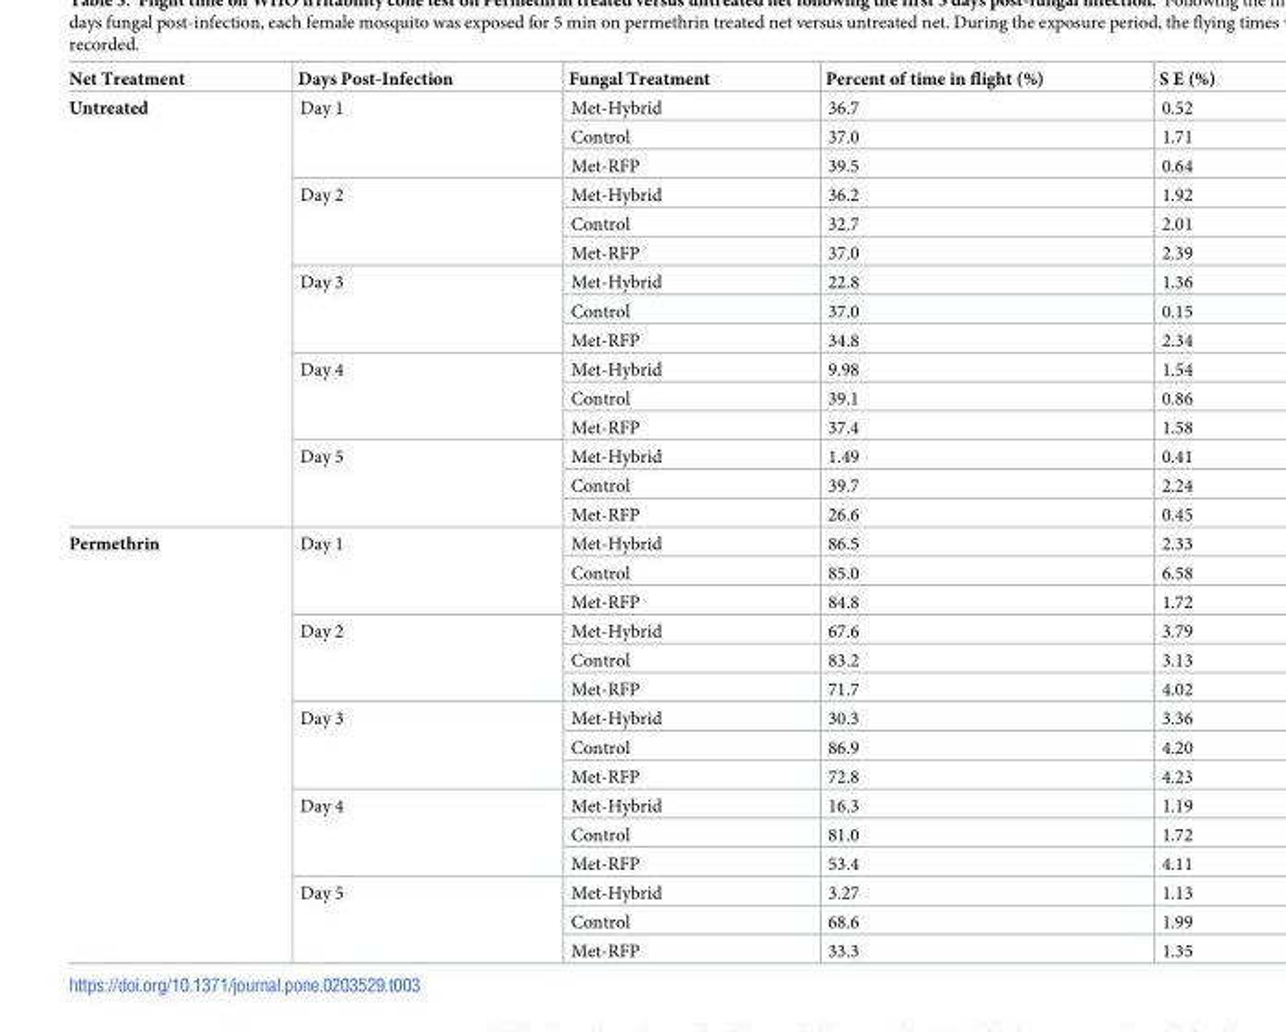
<table><thead><tr><td>Net Treatment</td><td>Days Post-Infection</td><td>Fungal Treatment</td><td>Percent of time in flight (%)</td><td>S E (%)</td></tr></thead><tbody><tr><td rowspan="15">Untreated</td><td rowspan="3">Day 1</td><td>Met-Hybrid</td><td>36.7</td><td>0.52</td></tr><tr><td>Control</td><td>37.0</td><td>1.71</td></tr><tr><td>Met-RFP</td><td>39.5</td><td>0.64</td></tr><tr><td rowspan="3">Day 2</td><td>Met-Hybrid</td><td>36.2</td><td>1.92</td></tr><tr><td>Control</td><td>32.7</td><td>2.01</td></tr><tr><td>Met-RFP</td><td>37.0</td><td>2.39</td></tr><tr><td rowspan="3">Day 3</td><td>Met-Hybrid</td><td>22.8</td><td>1.36</td></tr><tr><td>Control</td><td>37.0</td><td>0.15</td></tr><tr><td>Met-RFP</td><td>34.8</td><td>2.34</td></tr><tr><td rowspan="3">Day 4</td><td>Met-Hybrid</td><td>9.98</td><td>1.54</td></tr><tr><td>Control</td><td>39.1</td><td>0.86</td></tr><tr><td>Met-RFP</td><td>37.4</td><td>1.58</td></tr><tr><td rowspan="3">Day 5</td><td>Met-Hybrid</td><td>1.49</td><td>0.41</td></tr><tr><td>Control</td><td>39.7</td><td>2.24</td></tr><tr><td>Met-RFP</td><td>26.6</td><td>0.45</td></tr><tr><td rowspan="15">Permethrin</td><td rowspan="3">Day 1</td><td>Met-Hybrid</td><td>86.5</td><td>2.33</td></tr><tr><td>Control</td><td>85.0</td><td>6.58</td></tr><tr><td>Met-RFP</td><td>84.8</td><td>1.72</td></tr><tr><td rowspan="3">Day 2</td><td>Met-Hybrid</td><td>67.6</td><td>3.79</td></tr><tr><td>Control</td><td>83.2</td><td>3.13</td></tr><tr><td>Met-RFP</td><td>71.7</td><td>4.02</td></tr><tr><td rowspan="3">Day 3</td><td>Met-Hybrid</td><td>30.3</td><td>3.36</td></tr><tr><td>Control</td><td>86.9</td><td>4.20</td></tr><tr><td>Met-RFP</td><td>72.8</td><td>4.23</td></tr><tr><td rowspan="3">Day 4</td><td>Met-Hybrid</td><td>16.3</td><td>1.19</td></tr><tr><td>Control</td><td>81.0</td><td>1.72</td></tr><tr><td>Met-RFP</td><td>53.4</td><td>4.11</td></tr><tr><td rowspan="3">Day 5</td><td>Met-Hybrid</td><td>3.27</td><td>1.13</td></tr><tr><td>Control</td><td>68.6</td><td>1.99</td></tr><tr><td>Met-RFP</td><td>33.3</td><td>1.35</td></tr></tbody></table>